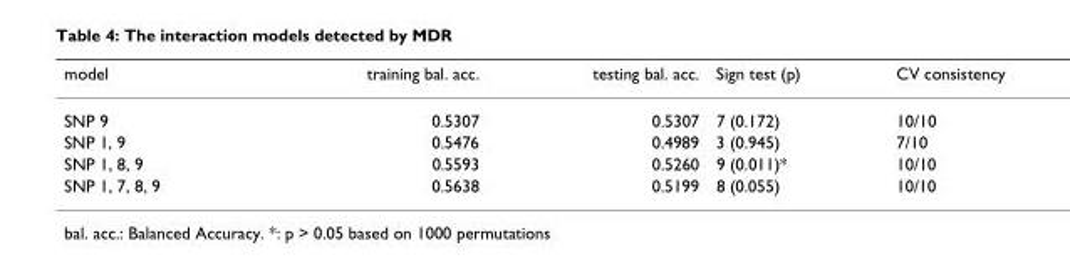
<table><thead><tr><td>model</td><td>training bal. acc.</td><td>testing bal. acc.</td><td>Sign test (p)</td><td>CV consistency</td></tr></thead><tbody><tr><td>SNP 9</td><td>0.5307</td><td>0.5307</td><td>7 (0.172)</td><td>10/10</td></tr><tr><td>SNP 1, 9</td><td>0.5476</td><td>0.4989</td><td>3 (0.945)</td><td>7/10</td></tr><tr><td>SNP 1, 8, 9</td><td>0.5593</td><td>0.5260</td><td>9 (0.011)*</td><td>10/10</td></tr><tr><td>SNP 1, 7, 8, 9</td><td>0.5638</td><td>0.5199</td><td>8 (0.055)</td><td>10/10</td></tr></tbody></table>